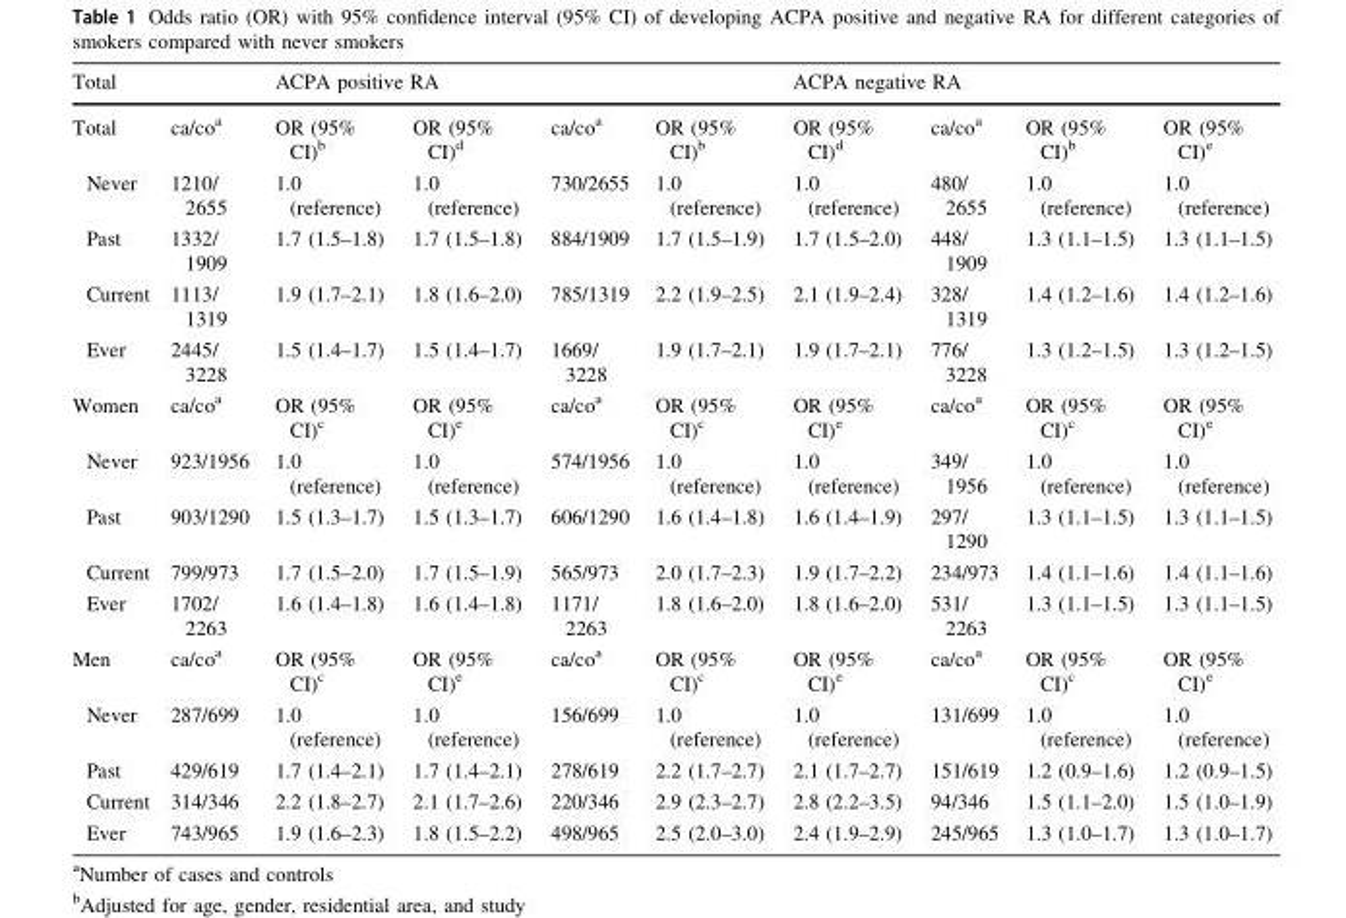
<table><thead><tr><td colspan="2">Total</td><td colspan="4">ACPA positive RA</td><td colspan="4">ACPA negative RA</td></tr><tr><td>Total</td><td>ca/co<sup>a</sup></td><td>OR (95% CI)<sup>b</sup></td><td>OR (95% CI)<sup>d</sup></td><td>ca/co<sup>a</sup></td><td>OR (95% CI)<sup>b</sup></td><td>OR (95% CI)<sup>d</sup></td><td>ca/co<sup>a</sup></td><td>OR (95% CI)<sup>b</sup></td><td>OR (95% CI)<sup>e</sup></td></tr></thead><tbody><tr><td>Never</td><td>1210/ 2655</td><td>1.0 (reference)</td><td>1.0 (reference)</td><td>730/2655</td><td>1.0 (reference)</td><td>1.0 (reference)</td><td>480/ 2655</td><td>1.0 (reference)</td><td>1.0 (reference)</td></tr><tr><td>Past</td><td>1332/ 1909</td><td>1.7 (1.5–1.8)</td><td>1.7 (1.5–1.8)</td><td>884/1909</td><td>1.7 (1.5–1.9)</td><td>1.7 (1.5–2.0)</td><td>448/ 1909</td><td>1.3 (1.1–1.5)</td><td>1.3 (1.1–1.5)</td></tr><tr><td>Current</td><td>1113/ 1319</td><td>1.9 (1.7–2.1)</td><td>1.8 (1.6–2.0)</td><td>785/1319</td><td>2.2 (1.9–2.5)</td><td>2.1 (1.9–2.4)</td><td>328/ 1319</td><td>1.4 (1.2–1.6)</td><td>1.4 (1.2–1.6)</td></tr><tr><td>Ever</td><td>2445/ 3228</td><td>1.5 (1.4–1.7)</td><td>1.5 (1.4–1.7)</td><td>1669/ 3228</td><td>1.9 (1.7–2.1)</td><td>1.9 (1.7–2.1)</td><td>776/ 3228</td><td>1.3 (1.2–1.5)</td><td>1.3 (1.2–1.5)</td></tr><tr><td>Women</td><td>ca/co<sup>a</sup></td><td>OR (95% CI)<sup>c</sup></td><td>OR (95% CI)<sup>e</sup></td><td>ca/co<sup>a</sup></td><td>OR (95% CI)<sup>c</sup></td><td>OR (95% CI)<sup>e</sup></td><td>ca/co<sup>a</sup></td><td>OR (95% CI)<sup>c</sup></td><td>OR (95% CI)<sup>e</sup></td></tr><tr><td>Never</td><td>923/1956</td><td>1.0 (reference)</td><td>1.0 (reference)</td><td>574/1956</td><td>1.0 (reference)</td><td>1.0 (reference)</td><td>349/ 1956</td><td>1.0 (reference)</td><td>1.0 (reference)</td></tr><tr><td>Past</td><td>903/1290</td><td>1.5 (1.3–1.7)</td><td>1.5 (1.3–1.7)</td><td>606/1290</td><td>1.6 (1.4–1.8)</td><td>1.6 (1.4–1.9)</td><td>297/ 1290</td><td>1.3 (1.1–1.5)</td><td>1.3 (1.1–1.5)</td></tr><tr><td>Current</td><td>799/973</td><td>1.7 (1.5–2.0)</td><td>1.7 (1.5–1.9)</td><td>565/973</td><td>2.0 (1.7–2.3)</td><td>1.9 (1.7–2.2)</td><td>234/973</td><td>1.4 (1.1–1.6)</td><td>1.4 (1.1–1.6)</td></tr><tr><td>Ever</td><td>1702/ 2263</td><td>1.6 (1.4–1.8)</td><td>1.6 (1.4–1.8)</td><td>1171/ 2263</td><td>1.8 (1.6–2.0)</td><td>1.8 (1.6–2.0)</td><td>531/ 2263</td><td>1.3 (1.1–1.5)</td><td>1.3 (1.1–1.5)</td></tr><tr><td>Men</td><td>ca/co<sup>a</sup></td><td>OR (95% CI)<sup>c</sup></td><td>OR (95% CI)<sup>e</sup></td><td>ca/co<sup>a</sup></td><td>OR (95% CI)<sup>c</sup></td><td>OR (95% CI)<sup>e</sup></td><td>ca/co<sup>a</sup></td><td>OR (95% CI)<sup>c</sup></td><td>OR (95% CI)<sup>e</sup></td></tr><tr><td>Never</td><td>287/699</td><td>1.0 (reference)</td><td>1.0 (reference)</td><td>156/699</td><td>1.0 (reference)</td><td>1.0 (reference)</td><td>131/699</td><td>1.0 (reference)</td><td>1.0 (reference)</td></tr><tr><td>Past</td><td>429/619</td><td>1.7 (1.4–2.1)</td><td>1.7 (1.4–2.1)</td><td>278/619</td><td>2.2 (1.7–2.7)</td><td>2.1 (1.7–2.7)</td><td>151/619</td><td>1.2 (0.9–1.6)</td><td>1.2 (0.9–1.5)</td></tr><tr><td>Current</td><td>314/346</td><td>2.2 (1.8–2.7)</td><td>2.1 (1.7–2.6)</td><td>220/346</td><td>2.9 (2.3–2.7)</td><td>2.8 (2.2–3.5)</td><td>94/346</td><td>1.5 (1.1–2.0)</td><td>1.5 (1.0–1.9)</td></tr><tr><td>Ever</td><td>743/965</td><td>1.9 (1.6–2.3)</td><td>1.8 (1.5–2.2)</td><td>498/965</td><td>2.5 (2.0–3.0)</td><td>2.4 (1.9–2.9)</td><td>245/965</td><td>1.3 (1.0–1.7)</td><td>1.3 (1.0–1.7)</td></tr></tbody></table>